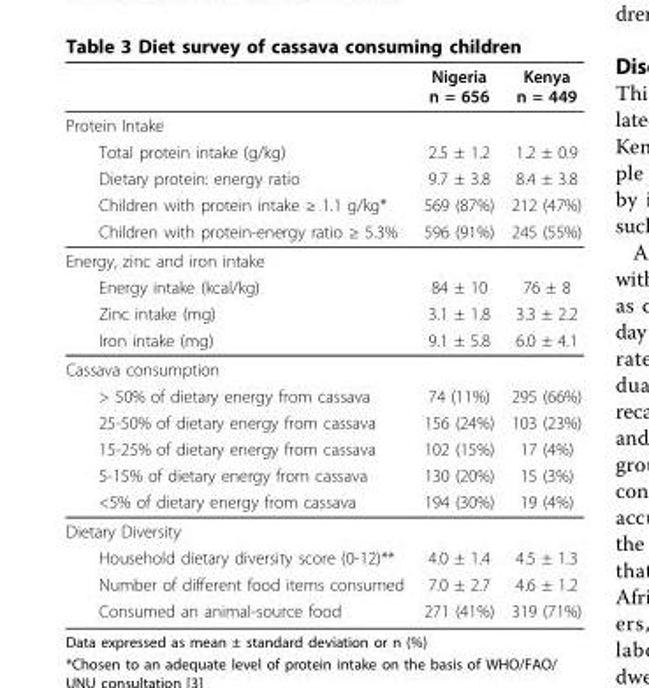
<table><thead><tr><td></td><td>Nigeria n = 656</td><td>Kenya n = 449</td></tr></thead><tbody><tr><td colspan="3">Protein Intake</td></tr><tr><td>Total protein intake (g/kg)</td><td>2.5 ± 1.2</td><td>1.2 ± 0.9</td></tr><tr><td>Dietary protein: energy ratio</td><td>9.7 ± 3.8</td><td>8.4 ± 3.8</td></tr><tr><td>Children with protein intake ≥ 1.1 g/kg*</td><td>569 (87%)</td><td>212 (47%)</td></tr><tr><td>Children with protein-energy ratio ≥ 5.3%</td><td>596 (91%)</td><td>245 (55%)</td></tr><tr><td colspan="3">Energy, zinc and iron intake</td></tr><tr><td>Energy intake (kcal/kg)</td><td>84 ± 10</td><td>76 ± 8</td></tr><tr><td>Zinc intake (mg)</td><td>3.1 ± 1.8</td><td>3.3 ± 2.2</td></tr><tr><td>Iron intake (mg)</td><td>9.1 ± 5.8</td><td>6.0 ± 4.1</td></tr><tr><td colspan="3">Cassava consumption</td></tr><tr><td>&gt; 50% of dietary energy from cassava</td><td>74 (11%)</td><td>295 (66%)</td></tr><tr><td>25-50% of dietary energy from cassava</td><td>156 (24%)</td><td>103 (23%)</td></tr><tr><td>15-25% of dietary energy from cassava</td><td>102 (15%)</td><td>17 (4%)</td></tr><tr><td>5-15% of dietary energy from cassava</td><td>130 (20%)</td><td>15 (3%)</td></tr><tr><td>&lt;5% of dietary energy from cassava</td><td>194 (30%)</td><td>19 (4%)</td></tr><tr><td colspan="3">Dietary Diversity</td></tr><tr><td>Household dietary diversity score (0-12)**</td><td>4.0 ± 1.4</td><td>4.5 ± 1.3</td></tr><tr><td>Number of different food items consumed</td><td>7.0 ± 2.7</td><td>4.6 ± 1.2</td></tr><tr><td>Consumed an animal-source food</td><td>271 (41%)</td><td>319 (71%)</td></tr></tbody></table>